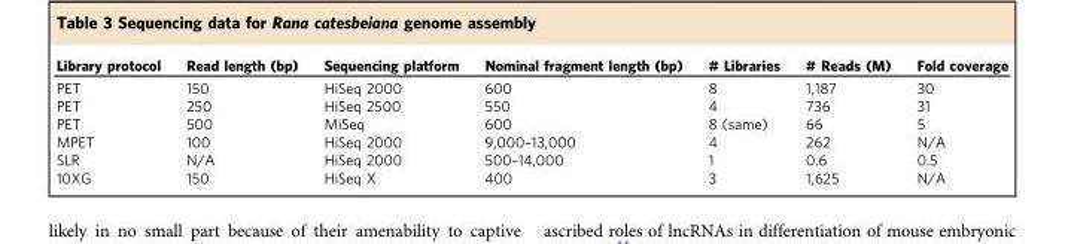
<table><thead><tr><td>Library protocol</td><td>Read length (bp)</td><td>Sequencing platform</td><td>Nominal fragment length (bp)</td><td># Libraries</td><td># Reads (M)</td><td>Fold coverage</td></tr></thead><tbody><tr><td>PET</td><td>150</td><td>HiSeq 2000</td><td>600</td><td>8</td><td>1,187</td><td>30</td></tr><tr><td>PET</td><td>250</td><td>HiSeq 2500</td><td>550</td><td>4</td><td>736</td><td>31</td></tr><tr><td>PET</td><td>500</td><td>MiSeq</td><td>600</td><td>8 (same)</td><td>66</td><td>5</td></tr><tr><td>MPET</td><td>100</td><td>HiSeq 2000</td><td>9,000–13,000</td><td>4</td><td>262</td><td>N/A</td></tr><tr><td>SLR</td><td>N/A</td><td>HiSeq 2000</td><td>500–14,000</td><td>1</td><td>0.6</td><td>0.5</td></tr><tr><td>10XG</td><td>150</td><td>HiSeq X</td><td>400</td><td>3</td><td>1,625</td><td>N/A</td></tr></tbody></table>